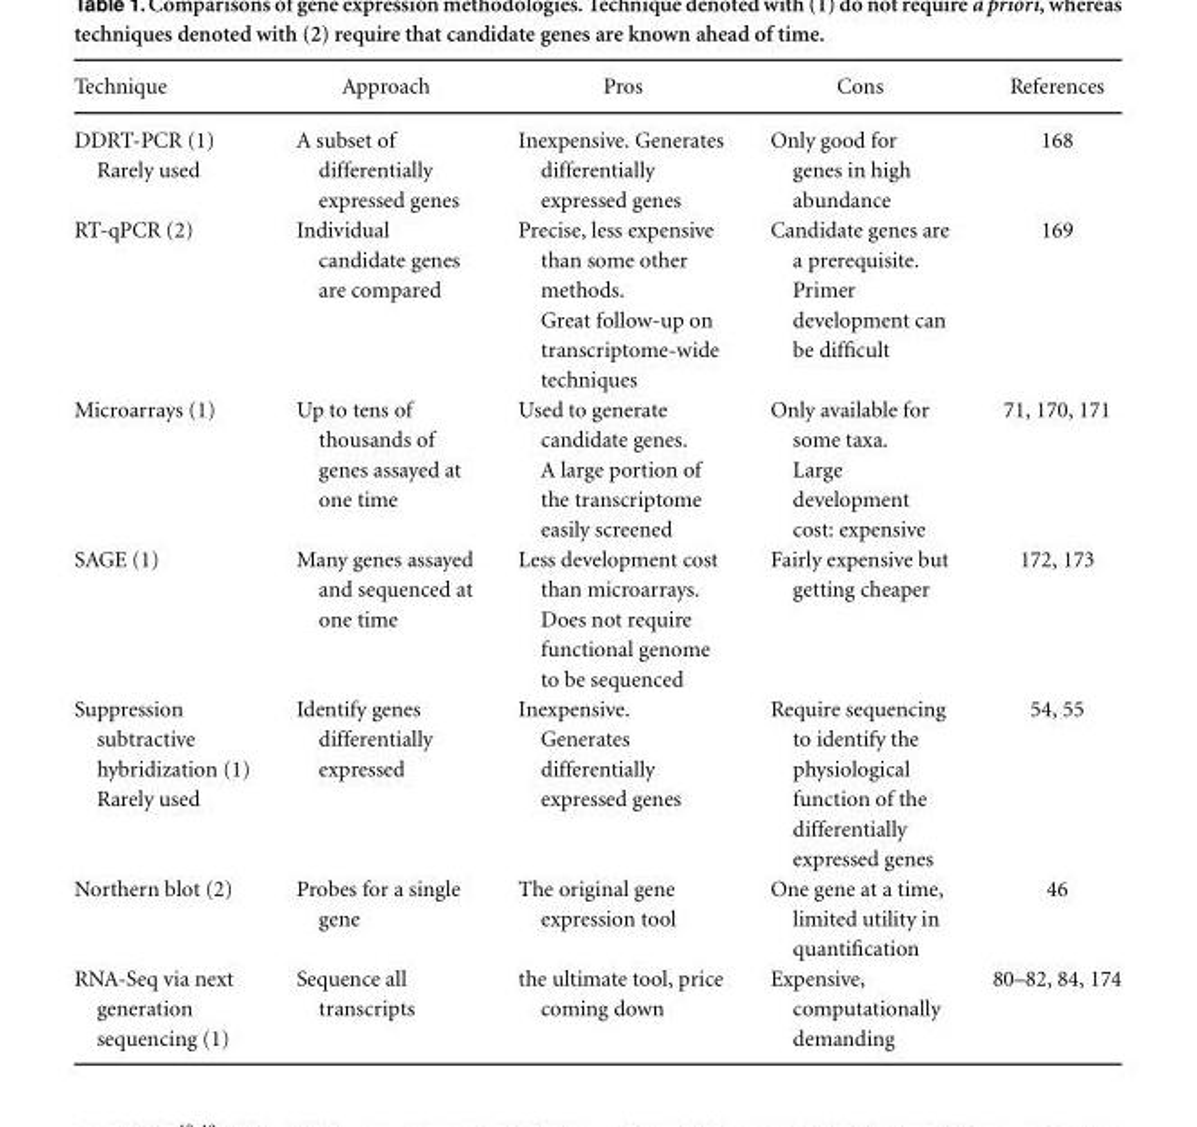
<table><thead><tr><td>Technique</td><td>Approach</td><td>Pros</td><td>Cons</td><td>References</td></tr></thead><tbody><tr><td>DDRT-PCR (1) Rarely used</td><td>A subset of differentially expressed genes</td><td>Inexpensive. Generates differentially expressed genes</td><td>Only good for genes in high abundance</td><td>168</td></tr><tr><td>RT-qPCR (2)</td><td>Individual candidate genes are compared</td><td>Precise, less expensive than some other methods. Great follow-up on transcriptome-wide techniques</td><td>Candidate genes are a prerequisite. Primer development can be difficult</td><td>169</td></tr><tr><td>Microarrays (1)</td><td>Up to tens of thousands of genes assayed at one time</td><td>Used to generate candidate genes. A large portion of the transcriptome easily screened</td><td>Only available for some taxa. Large development cost: expensive</td><td>71, 170, 171</td></tr><tr><td>SAGE (1)</td><td>Many genes assayed and sequenced at one time</td><td>Less development cost than microarrays. Does not require functional genome to be sequenced</td><td>Fairly expensive but getting cheaper</td><td>172, 173</td></tr><tr><td>Suppression subtractive hybridization (1) Rarely used</td><td>Identify genes differentially expressed</td><td>Inexpensive. Generates differentially expressed genes</td><td>Require sequencing to identify the physiological function of the differentially expressed genes</td><td>54, 55</td></tr><tr><td>Northern blot (2)</td><td>Probes for a single gene</td><td>The original gene expression tool</td><td>One gene at a time, limited utility in quantification</td><td>46</td></tr><tr><td>RNA-Seq via next generation sequencing (1)</td><td>Sequence all transcripts</td><td>the ultimate tool, price coming down</td><td>Expensive, computationally demanding</td><td>80–82, 84, 174</td></tr></tbody></table>